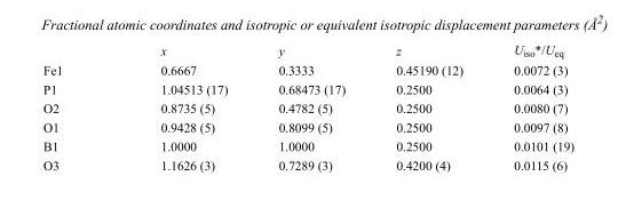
<table><thead><tr><td></td><td>x</td><td>y</td><td>z</td><td>U<sub>iso</sub>*/U<sub>eq</sub></td></tr></thead><tbody><tr><td>Fe1</td><td>0.6667</td><td>0.3333</td><td>0.45190 (12)</td><td>0.0072 (3)</td></tr><tr><td>P1</td><td>1.04513 (17)</td><td>0.68473 (17)</td><td>0.2500</td><td>0.0064 (3)</td></tr><tr><td>O2</td><td>0.8735 (5)</td><td>0.4782 (5)</td><td>0.2500</td><td>0.0080 (7)</td></tr><tr><td>O1</td><td>0.9428 (5)</td><td>0.8099 (5)</td><td>0.2500</td><td>0.0097 (8)</td></tr><tr><td>B1</td><td>1.0000</td><td>1.0000</td><td>0.2500</td><td>0.0101 (19)</td></tr><tr><td>O3</td><td>1.1626 (3)</td><td>0.7289 (3)</td><td>0.4200 (4)</td><td>0.0115 (6)</td></tr></tbody></table>